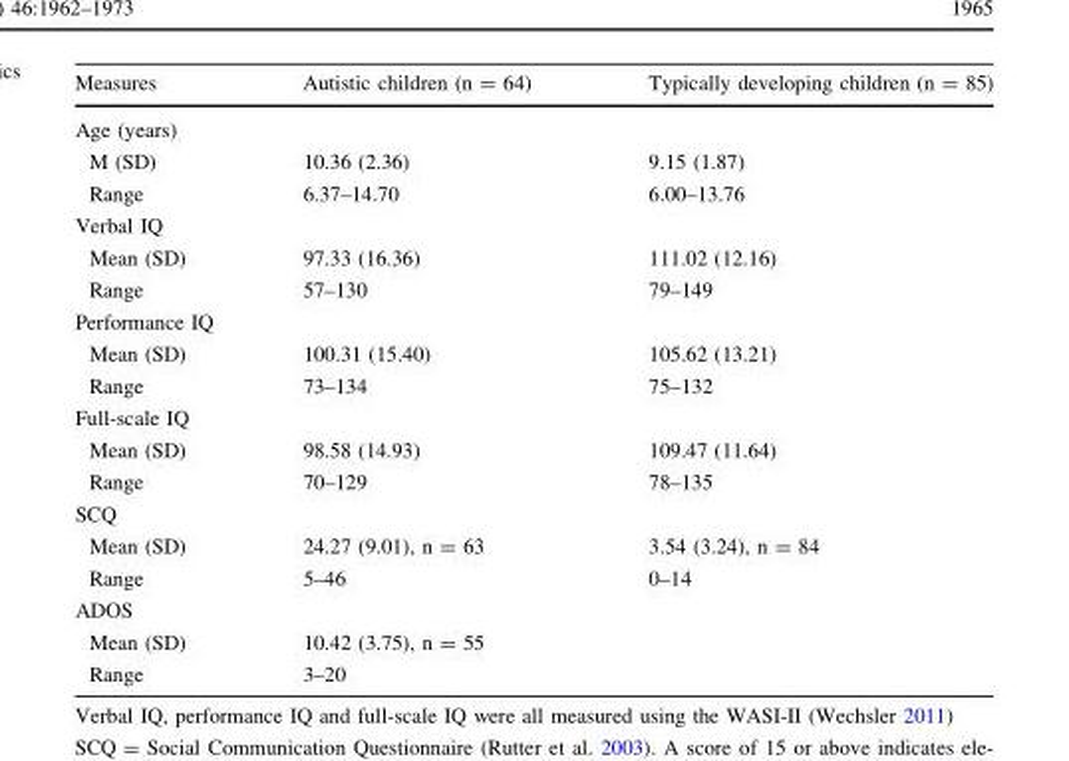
<table><thead><tr><td>Measures</td><td>Autistic children (n = 64)</td><td>Typically developing children (n = 85)</td></tr></thead><tbody><tr><td colspan="3">Age (years)</td></tr><tr><td>M (SD)</td><td>10.36 (2.36)</td><td>9.15 (1.87)</td></tr><tr><td>Range</td><td>6.37–14.70</td><td>6.00–13.76</td></tr><tr><td colspan="3">Verbal IQ</td></tr><tr><td>Mean (SD)</td><td>97.33 (16.36)</td><td>111.02 (12.16)</td></tr><tr><td>Range</td><td>57–130</td><td>79–149</td></tr><tr><td colspan="3">Performance IQ</td></tr><tr><td>Mean (SD)</td><td>100.31 (15.40)</td><td>105.62 (13.21)</td></tr><tr><td>Range</td><td>73–134</td><td>75–132</td></tr><tr><td colspan="3">Full-scale IQ</td></tr><tr><td>Mean (SD)</td><td>98.58 (14.93)</td><td>109.47 (11.64)</td></tr><tr><td>Range</td><td>70–129</td><td>78–135</td></tr><tr><td colspan="3">SCQ</td></tr><tr><td>Mean (SD)</td><td>24.27 (9.01), n = 63</td><td>3.54 (3.24), n = 84</td></tr><tr><td>Range</td><td>5–46</td><td>0–14</td></tr><tr><td colspan="3">ADOS</td></tr><tr><td>Mean (SD)</td><td>10.42 (3.75), n = 55</td><td></td></tr><tr><td>Range</td><td>3–20</td><td></td></tr></tbody></table>